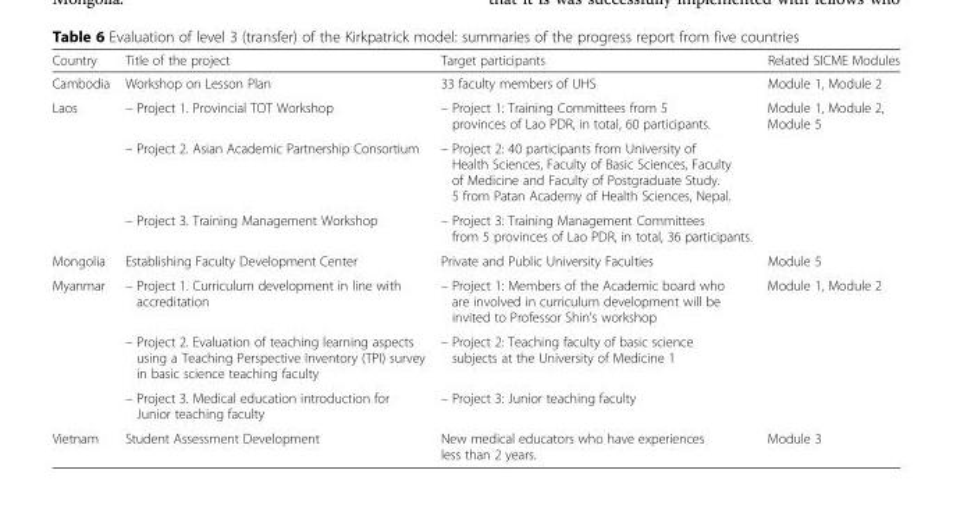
<table><thead><tr><td>Country</td><td>Title of the project</td><td>Target participants</td><td>Related SICME Modules</td></tr></thead><tbody><tr><td>Cambodia</td><td>Workshop on Lesson Plan</td><td>33 faculty members of UHS</td><td>Module 1, Module 2</td></tr><tr><td rowspan="3">Laos</td><td>– Project 1. Provincial TOT Workshop</td><td>– Project 1: Training Committees from 5 provinces of Lao PDR, in total, 60 participants.</td><td rowspan="3">Module 1, Module 2, Module 5</td></tr><tr><td>– Project 2. Asian Academic Partnership Consortium</td><td>– Project 2: 40 participants from University of Health Sciences, Faculty of Basic Sciences, Faculty of Medicine and Faculty of Postgraduate Study. 5 from Patan Academy of Health Sciences, Nepal.</td></tr><tr><td>– Project 3. Training Management Workshop</td><td>– Project 3: Training Management Committees from 5 provinces of Lao PDR, in total, 36 participants.</td></tr><tr><td>Mongolia</td><td>Establishing Faculty Development Center</td><td>Private and Public University Faculties</td><td>Module 5</td></tr><tr><td rowspan="3">Myanmar</td><td>– Project 1. Curriculum development in line with accreditation</td><td>– Project 1: Members of the Academic board who are involved in curriculum development will be invited to Professor Shin&#x27;s workshop</td><td rowspan="3">Module 1, Module 2</td></tr><tr><td>– Project 2. Evaluation of teaching learning aspects using a Teaching Perspective Inventory (TPI) survey in basic science teaching faculty</td><td>– Project 2: Teaching faculty of basic science subjects at the University of Medicine 1</td></tr><tr><td>– Project 3. Medical education introduction for Junior teaching faculty</td><td>– Project 3: Junior teaching faculty</td></tr><tr><td>Vietnam</td><td>Student Assessment Development</td><td>New medical educators who have experiences less than 2 years.</td><td>Module 3</td></tr></tbody></table>